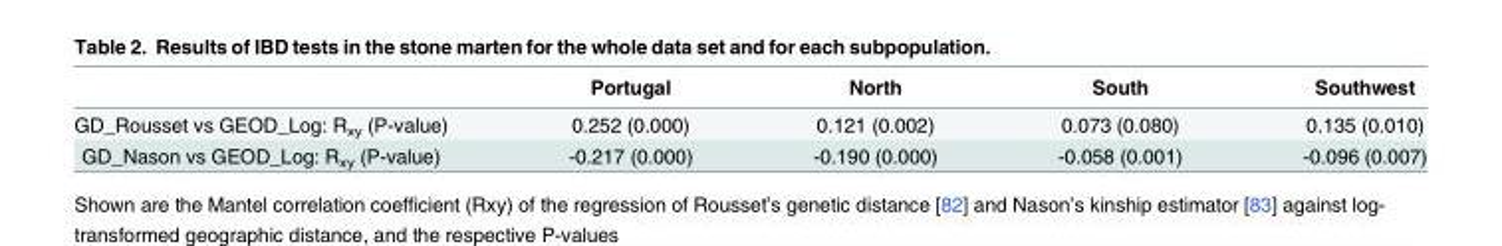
<table><thead><tr><td></td><td>Portugal</td><td>North</td><td>South</td><td>Southwest</td></tr></thead><tbody><tr><td>GD_Rousset vs GEOD_Log: R<sub>xy</sub> (P-value)</td><td>0.252 (0.000)</td><td>0.121 (0.002)</td><td>0.073 (0.080)</td><td>0.135 (0.010)</td></tr><tr><td>GD_Nason vs GEOD_Log: R<sub>xy</sub> (P-value)</td><td>-0.217 (0.000)</td><td>-0.190 (0.000)</td><td>-0.058 (0.001)</td><td>-0.096 (0.007)</td></tr></tbody></table>